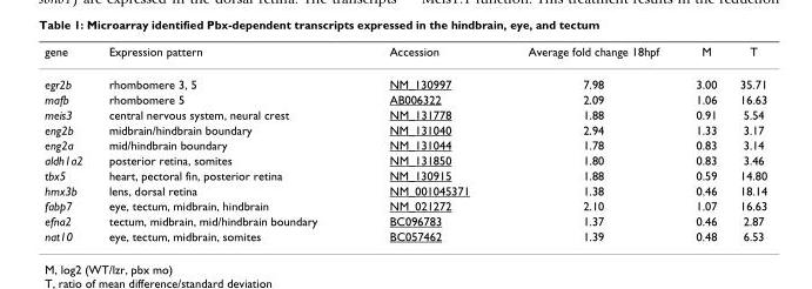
<table><thead><tr><td>gene</td><td>Expression pattern</td><td>Accession</td><td>Average fold change 18hpf</td><td>M</td><td>T</td></tr></thead><tbody><tr><td>egr2b</td><td>rhombomere 3, 5</td><td>NM_130997</td><td>7.98</td><td>3.00</td><td>35.71</td></tr><tr><td>mafb</td><td>rhombomere 5</td><td>AB006322</td><td>2.09</td><td>1.06</td><td>16.63</td></tr><tr><td>meis3</td><td>central nervous system, neural crest</td><td>NM_131778</td><td>1.88</td><td>0.91</td><td>5.54</td></tr><tr><td>eng2b</td><td>midbrain/hindbrain boundary</td><td>NM_131040</td><td>2.94</td><td>1.33</td><td>3.17</td></tr><tr><td>eng2a</td><td>mid/hindbrain boundary</td><td>NM_131044</td><td>1.78</td><td>0.83</td><td>3.14</td></tr><tr><td>aldh1a2</td><td>posterior retina, somites</td><td>NM_131850</td><td>1.80</td><td>0.83</td><td>3.46</td></tr><tr><td>tbx5</td><td>heart, pectoral fin, posterior retina</td><td>NM_130915</td><td>1.88</td><td>0.59</td><td>14.80</td></tr><tr><td>hmx3b</td><td>lens, dorsal retina</td><td>NM_001045371</td><td>1.38</td><td>0.46</td><td>18.14</td></tr><tr><td>fabp7</td><td>eye, tectum, midbrain, hindbrain</td><td>NM_021272</td><td>2.10</td><td>1.07</td><td>16.63</td></tr><tr><td>efna2</td><td>tectum, midbrain, mid/hindbrain boundary</td><td>BC096783</td><td>1.37</td><td>0.46</td><td>2.87</td></tr><tr><td>nat10</td><td>eye, tectum, midbrain, somites</td><td>BC057462</td><td>1.39</td><td>0.48</td><td>6.53</td></tr></tbody></table>